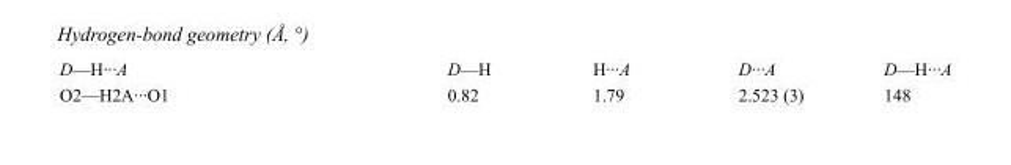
<table><tbody><tr><td>D—H···A</td><td>D—H</td><td>H···A</td><td>D···A</td><td>D—H···A</td></tr><tr><td>O2—H2A···O1</td><td>0.82</td><td>1.79</td><td>2.523 (3)</td><td>148</td></tr></tbody></table>